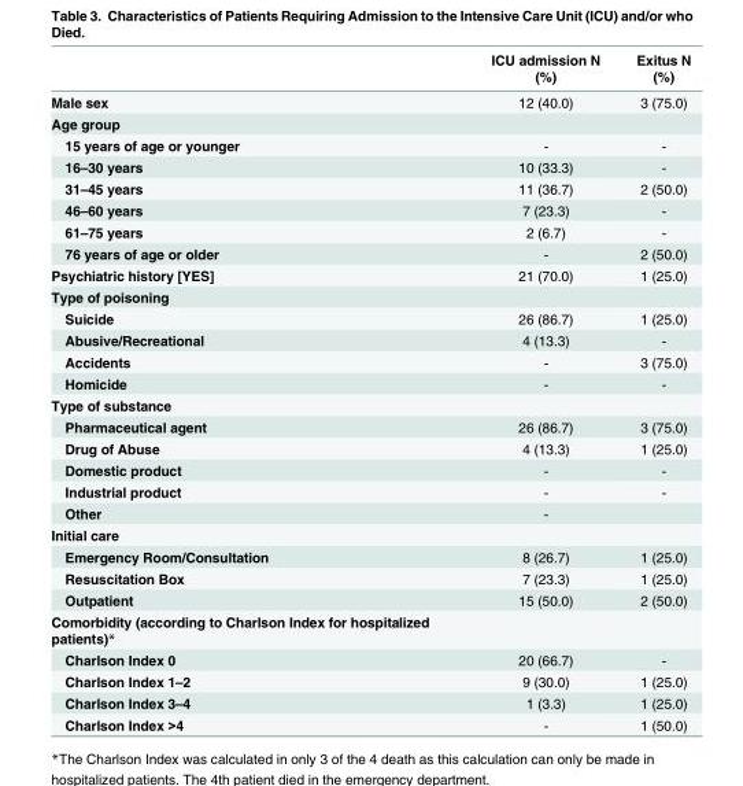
<table><thead><tr><td></td><td>ICU admission N (%)</td><td>Exitus N (%)</td></tr></thead><tbody><tr><td>Male sex</td><td>12 (40.0)</td><td>3 (75.0)</td></tr><tr><td colspan="3">Age group</td></tr><tr><td>15 years of age or younger</td><td>-</td><td>-</td></tr><tr><td>16–30 years</td><td>10 (33.3)</td><td>-</td></tr><tr><td>31–45 years</td><td>11 (36.7)</td><td>2 (50.0)</td></tr><tr><td>46–60 years</td><td>7 (23.3)</td><td>-</td></tr><tr><td>61–75 years</td><td>2 (6.7)</td><td>-</td></tr><tr><td>76 years of age or older</td><td>-</td><td>2 (50.0)</td></tr><tr><td>Psychiatric history [YES]</td><td>21 (70.0)</td><td>1 (25.0)</td></tr><tr><td colspan="3">Type of poisoning</td></tr><tr><td>Suicide</td><td>26 (86.7)</td><td>1 (25.0)</td></tr><tr><td>Abusive/Recreational</td><td>4 (13.3)</td><td>-</td></tr><tr><td>Accidents</td><td>-</td><td>3 (75.0)</td></tr><tr><td>Homicide</td><td>-</td><td>-</td></tr><tr><td colspan="3">Type of substance</td></tr><tr><td>Pharmaceutical agent</td><td>26 (86.7)</td><td>3 (75.0)</td></tr><tr><td>Drug of Abuse</td><td>4 (13.3)</td><td>1 (25.0)</td></tr><tr><td>Domestic product</td><td>-</td><td>-</td></tr><tr><td>Industrial product</td><td>-</td><td>-</td></tr><tr><td>Other</td><td>-</td><td></td></tr><tr><td colspan="3">Initial care</td></tr><tr><td>Emergency Room/Consultation</td><td>8 (26.7)</td><td>1 (25.0)</td></tr><tr><td>Resuscitation Box</td><td>7 (23.3)</td><td>1 (25.0)</td></tr><tr><td>Outpatient</td><td>15 (50.0)</td><td>2 (50.0)</td></tr><tr><td colspan="3">Comorbidity (according to Charlson Index for hospitalized patients)*</td></tr><tr><td>Charlson Index 0</td><td>20 (66.7)</td><td>-</td></tr><tr><td>Charlson Index 1–2</td><td>9 (30.0)</td><td>1 (25.0)</td></tr><tr><td>Charlson Index 3–4</td><td>1 (3.3)</td><td>1 (25.0)</td></tr><tr><td>Charlson Index &gt;4</td><td>-</td><td>1 (50.0)</td></tr></tbody></table>